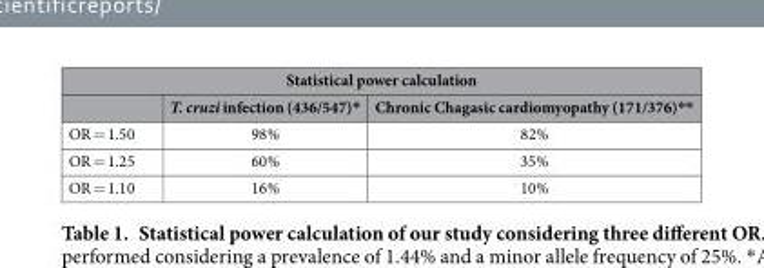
<table><thead><tr><td colspan="3">Statistical power calculation</td></tr><tr><td></td><td>T. cruzi infection (436/547)*</td><td>Chronic Chagasic cardiomyopathy (171/376)**</td></tr></thead><tbody><tr><td>OR = 1.50</td><td>98%</td><td>82%</td></tr><tr><td>OR = 1.25</td><td>60%</td><td>35%</td></tr><tr><td>OR = 1.10</td><td>16%</td><td>10%</td></tr></tbody></table>